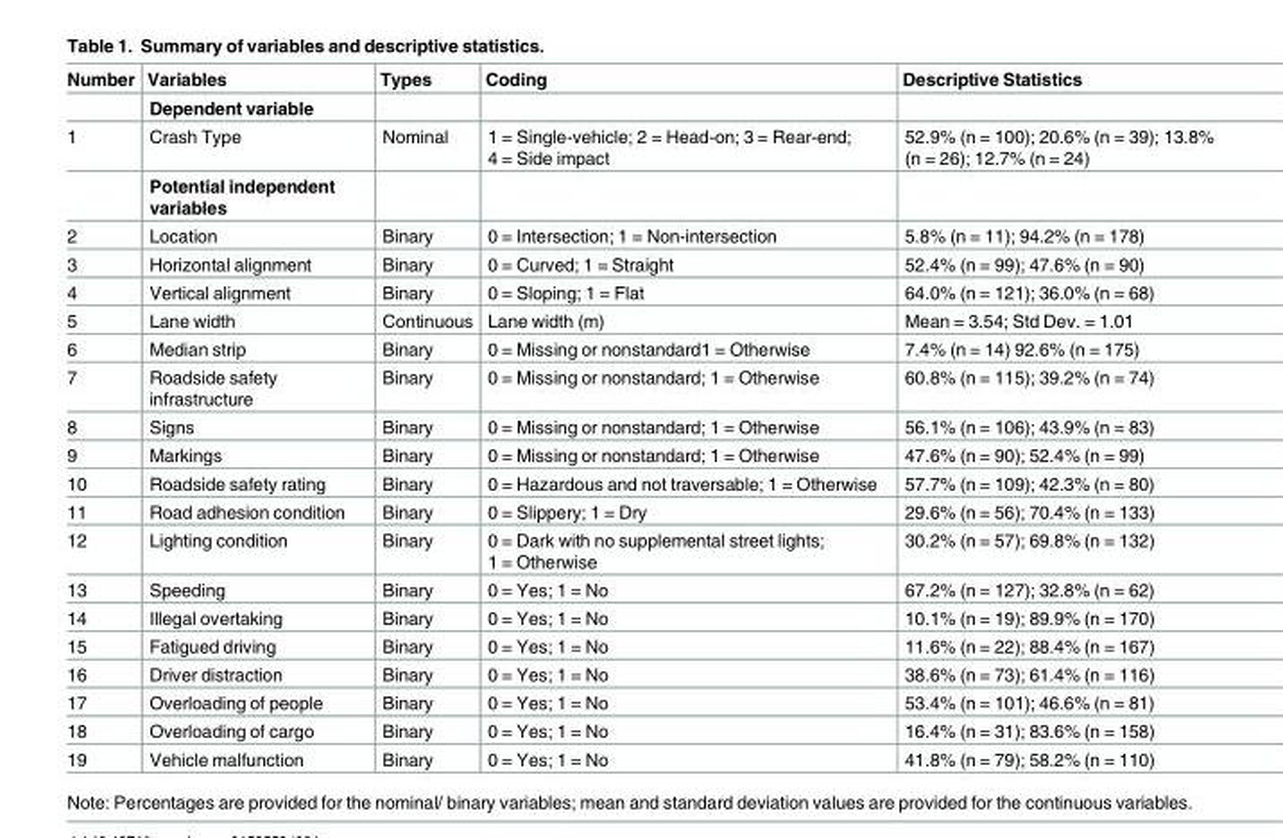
<table><thead><tr><td>Number</td><td>Variables</td><td>Types</td><td>Coding</td><td>Descriptive Statistics</td></tr></thead><tbody><tr><td></td><td>Dependent variable</td><td></td><td></td><td></td></tr><tr><td rowspan="2">1</td><td>Crash Type</td><td>Nominal</td><td>1 = Single-vehicle; 2 = Head-on; 3 = Rear-end; 4 = Side impact</td><td>52.9% (n = 100); 20.6% (n = 39); 13.8% (n = 26); 12.7% (n = 24)</td></tr><tr><td>Potential independent variables</td><td></td><td></td><td></td></tr><tr><td>2</td><td>Location</td><td>Binary</td><td>0 = Intersection; 1 = Non-intersection</td><td>5.8% (n = 11); 94.2% (n = 178)</td></tr><tr><td>3</td><td>Horizontal alignment</td><td>Binary</td><td>0 = Curved; 1 = Straight</td><td>52.4% (n = 99); 47.6% (n = 90)</td></tr><tr><td>4</td><td>Vertical alignment</td><td>Binary</td><td>0 = Sloping; 1 = Flat</td><td>64.0% (n = 121); 36.0% (n = 68)</td></tr><tr><td>5</td><td>Lane width</td><td>Continuous</td><td>Lane width (m)</td><td>Mean = 3.54; Std Dev. = 1.01</td></tr><tr><td>6</td><td>Median strip</td><td>Binary</td><td>0 = Missing or nonstandard1 = Otherwise</td><td>7.4% (n = 14) 92.6% (n = 175)</td></tr><tr><td>7</td><td>Roadside safety infrastructure</td><td>Binary</td><td>0 = Missing or nonstandard; 1 = Otherwise</td><td>60.8% (n = 115); 39.2% (n = 74)</td></tr><tr><td>8</td><td>Signs</td><td>Binary</td><td>0 = Missing or nonstandard; 1 = Otherwise</td><td>56.1% (n = 106); 43.9% (n = 83)</td></tr><tr><td>9</td><td>Markings</td><td>Binary</td><td>0 = Missing or nonstandard; 1 = Otherwise</td><td>47.6% (n = 90); 52.4% (n = 99)</td></tr><tr><td>10</td><td>Roadside safety rating</td><td>Binary</td><td>0 = Hazardous and not traversable; 1 = Otherwise</td><td>57.7% (n = 109); 42.3% (n = 80)</td></tr><tr><td>11</td><td>Road adhesion condition</td><td>Binary</td><td>0 = Slippery; 1 = Dry</td><td>29.6% (n = 56); 70.4% (n = 133)</td></tr><tr><td>12</td><td>Lighting condition</td><td>Binary</td><td>0 = Dark with no supplemental street lights; 1 = Otherwise</td><td>30.2% (n = 57); 69.8% (n = 132)</td></tr><tr><td>13</td><td>Speeding</td><td>Binary</td><td>0 = Yes; 1 = No</td><td>67.2% (n = 127); 32.8% (n = 62)</td></tr><tr><td>14</td><td>Illegal overtaking</td><td>Binary</td><td>0 = Yes; 1 = No</td><td>10.1% (n = 19); 89.9% (n = 170)</td></tr><tr><td>15</td><td>Fatigued driving</td><td>Binary</td><td>0 = Yes; 1 = No</td><td>11.6% (n = 22); 88.4% (n = 167)</td></tr><tr><td>16</td><td>Driver distraction</td><td>Binary</td><td>0 = Yes; 1 = No</td><td>38.6% (n = 73); 61.4% (n = 116)</td></tr><tr><td>17</td><td>Overloading of people</td><td>Binary</td><td>0 = Yes; 1 = No</td><td>53.4% (n = 101); 46.6% (n = 81)</td></tr><tr><td>18</td><td>Overloading of cargo</td><td>Binary</td><td>0 = Yes; 1 = No</td><td>16.4% (n = 31); 83.6% (n = 158)</td></tr><tr><td>19</td><td>Vehicle malfunction</td><td>Binary</td><td>0 = Yes; 1 = No</td><td>41.8% (n = 79); 58.2% (n = 110)</td></tr></tbody></table>